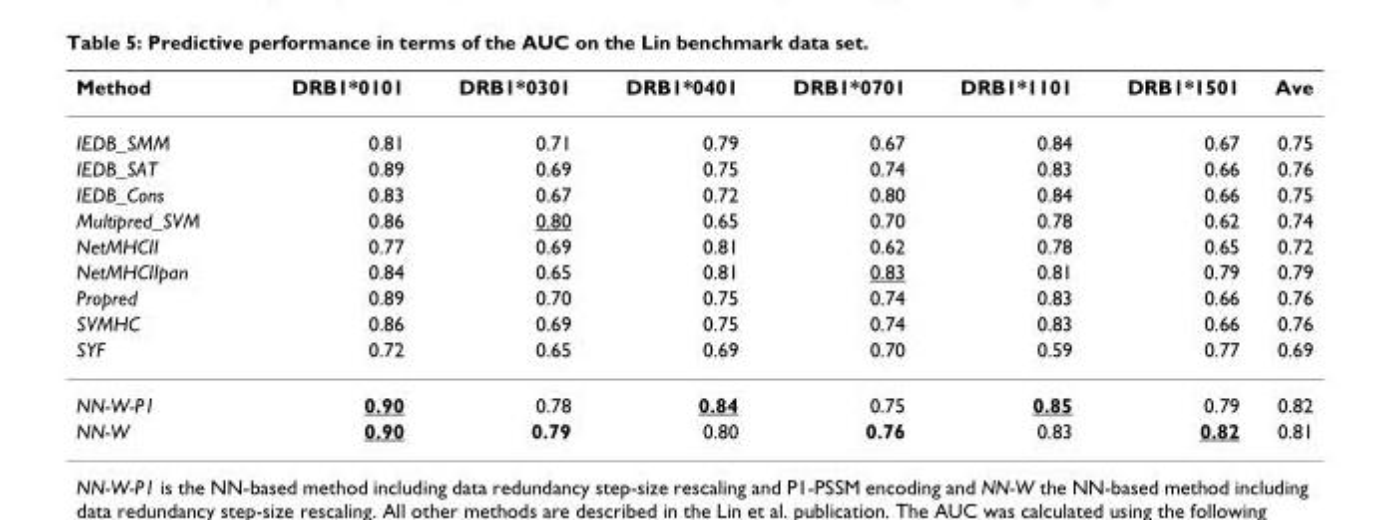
<table><thead><tr><td>Method</td><td>DRB1*0101</td><td>DRB1*0301</td><td>DRB1*0401</td><td>DRB1*0701</td><td>DRB1*1101</td><td>DRB1*1501</td><td>Ave</td></tr></thead><tbody><tr><td>IEDB_SMM</td><td>0.81</td><td>0.71</td><td>0.79</td><td>0.67</td><td>0.84</td><td>0.67</td><td>0.75</td></tr><tr><td>IEDB_SAT</td><td>0.89</td><td>0.69</td><td>0.75</td><td>0.74</td><td>0.83</td><td>0.66</td><td>0.76</td></tr><tr><td>IEDB_Cons</td><td>0.83</td><td>0.67</td><td>0.72</td><td>0.80</td><td>0.84</td><td>0.66</td><td>0.75</td></tr><tr><td>Multipred_SVM</td><td>0.86</td><td>0.80</td><td>0.65</td><td>0.70</td><td>0.78</td><td>0.62</td><td>0.74</td></tr><tr><td>NetMHCII</td><td>0.77</td><td>0.69</td><td>0.81</td><td>0.62</td><td>0.78</td><td>0.65</td><td>0.72</td></tr><tr><td>NetMHCIIpan</td><td>0.84</td><td>0.65</td><td>0.81</td><td>0.83</td><td>0.81</td><td>0.79</td><td>0.79</td></tr><tr><td>Propred</td><td>0.89</td><td>0.70</td><td>0.75</td><td>0.74</td><td>0.83</td><td>0.66</td><td>0.76</td></tr><tr><td>SVMHC</td><td>0.86</td><td>0.69</td><td>0.75</td><td>0.74</td><td>0.83</td><td>0.66</td><td>0.76</td></tr><tr><td>SYF</td><td>0.72</td><td>0.65</td><td>0.69</td><td>0.70</td><td>0.59</td><td>0.77</td><td>0.69</td></tr><tr><td>NN-W-P1</td><td>0.90</td><td>0.78</td><td>0.84</td><td>0.75</td><td>0.85</td><td>0.79</td><td>0.82</td></tr><tr><td>NN-W</td><td>0.90</td><td>0.79</td><td>0.80</td><td>0.76</td><td>0.83</td><td>0.82</td><td>0.81</td></tr></tbody></table>